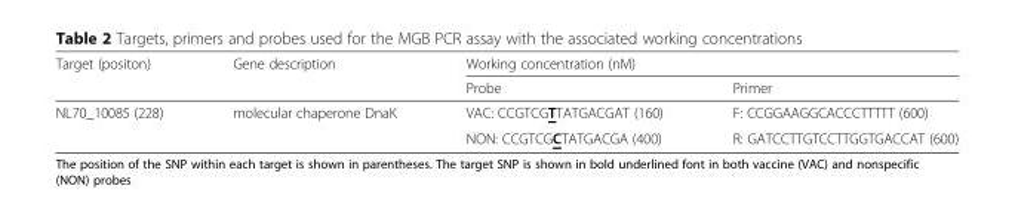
<table><thead><tr><td rowspan="2">Target (positon)</td><td rowspan="2">Gene description</td><td colspan="2">Working concentration (nM)</td></tr><tr><td>Probe</td><td>Primer</td></tr></thead><tbody><tr><td rowspan="2">NL70_10085 (228)</td><td rowspan="2">molecular chaperone DnaK</td><td>VAC: CCGTCGTTATGACGAT (160)</td><td>F: CCGGAAGGCACCCTTTTT (600)</td></tr><tr><td>NON: CCGTCGCTATGACGA (400)</td><td>R: GATCCTTGTCCTTGGTGACCAT (600)</td></tr></tbody></table>